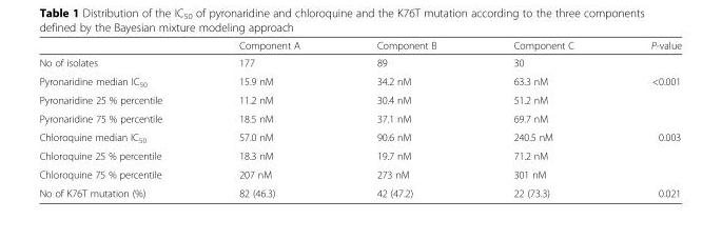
<table><thead><tr><td></td><td>Component A</td><td>Component B</td><td>Component C</td><td>P-value</td></tr></thead><tbody><tr><td>No of isolates</td><td>177</td><td>89</td><td>30</td><td></td></tr><tr><td>Pyronaridine median IC<sub>50</sub></td><td>15.9 nM</td><td>34.2 nM</td><td>63.3 nM</td><td>&lt;0.001</td></tr><tr><td>Pyronaridine 25 % percentile</td><td>11.2 nM</td><td>30.4 nM</td><td>51.2 nM</td><td></td></tr><tr><td>Pyronaridine 75 % percentile</td><td>18.5 nM</td><td>37.1 nM</td><td>69.7 nM</td><td></td></tr><tr><td>Chloroquine median IC<sub>50</sub></td><td>57.0 nM</td><td>90.6 nM</td><td>240.5 nM</td><td>0.003</td></tr><tr><td>Chloroquine 25 % percentile</td><td>18.3 nM</td><td>19.7 nM</td><td>71.2 nM</td><td></td></tr><tr><td>Chloroquine 75 % percentile</td><td>207 nM</td><td>273 nM</td><td>301 nM</td><td></td></tr><tr><td>No of K76T mutation (%)</td><td>82 (46.3)</td><td>42 (47.2)</td><td>22 (73.3)</td><td>0.021</td></tr></tbody></table>